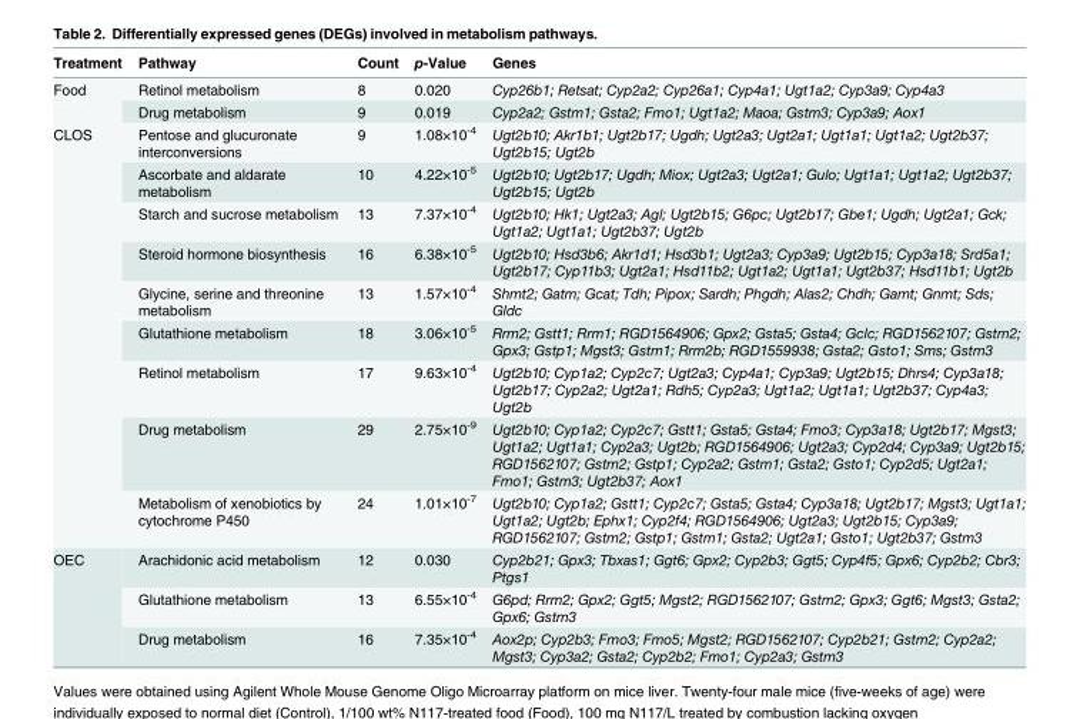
<table><thead><tr><td>Treatment</td><td>Pathway</td><td>Count</td><td>p-Value</td><td>Genes</td></tr></thead><tbody><tr><td rowspan="2">Food</td><td>Retinol metabolism</td><td>8</td><td>0.020</td><td>Cyp26b1; Retsat; Cyp2a2; Cyp26a1; Cyp4a1; Ugt1a2; Cyp3a9; Cyp4a3</td></tr><tr><td>Drug metabolism</td><td>9</td><td>0.019</td><td>Cyp2a2; Gstm1; Gsta2; Fmo1; Ugt1a2; Maoa; Gstm3; Cyp3a9; Aox1</td></tr><tr><td rowspan="9">CLOS</td><td>Pentose and glucuronate interconversions</td><td>9</td><td>1.08×10<sup>-4</sup></td><td>Ugt2b10; Akr1b1; Ugt2b17; Ugdh; Ugt2a3; Ugt2a1; Ugt1a1; Ugt1a2; Ugt2b37; Ugt2b15; Ugt2b</td></tr><tr><td>Ascorbate and aldarate metabolism</td><td>10</td><td>4.22×10<sup>-5</sup></td><td>Ugt2b10; Ugt2b17; Ugdh; Miox; Ugt2a3; Ugt2a1; Gulo; Ugt1a1; Ugt1a2; Ugt2b37; Ugt2b15; Ugt2b</td></tr><tr><td>Starch and sucrose metabolism</td><td>13</td><td>7.37×10<sup>-4</sup></td><td>Ugt2b10; Hk1; Ugt2a3; Agl; Ugt2b15; G6pc; Ugt2b17; Gbe1; Ugdh; Ugt2a1; Gck; Ugt1a2; Ugt1a1; Ugt2b37; Ugt2b</td></tr><tr><td>Steroid hormone biosynthesis</td><td>16</td><td>6.38×10<sup>-5</sup></td><td>Ugt2b10; Hsd3b6; Akr1d1; Hsd3b1; Ugt2a3; Cyp3a9; Ugt2b15; Cyp3a18; Srd5a1; Ugt2b17; Cyp11b3; Ugt2a1; Hsd11b2; Ugt1a2; Ugt1a1; Ugt2b37; Hsd11b1; Ugt2b</td></tr><tr><td>Glycine, serine and threonine metabolism</td><td>13</td><td>1.57×10<sup>-4</sup></td><td>Shmt2; Gatm; Gcat; Tdh; Pipox; Sardh; Phgdh; Alas2; Chdh; Gamt; Gnmt; Sds; Gldc</td></tr><tr><td>Glutathione metabolism</td><td>18</td><td>3.06×10<sup>-5</sup></td><td>Rrm2; Gstt1; Rrm1; RGD1564906; Gpx2; Gsta5; Gsta4; Gclc; RGD1562107; Gstm2; Gpx3; Gstp1; Mgst3; Gstm1; Rrm2b; RGD1559938; Gsta2; Gsto1; Sms; Gstm3</td></tr><tr><td>Retinol metabolism</td><td>17</td><td>9.63×10<sup>-4</sup></td><td>Ugt2b10; Cyp1a2; Cyp2c7; Ugt2a3; Cyp4a1; Cyp3a9; Ugt2b15; Dhrs4; Cyp3a18; Ugt2b17; Cyp2a2; Ugt2a1; Rdh5; Cyp2a3; Ugt1a2; Ugt1a1; Ugt2b37; Cyp4a3; Ugt2b</td></tr><tr><td>Drug metabolism</td><td>29</td><td>2.75×10<sup>-9</sup></td><td>Ugt2b10; Cyp1a2; Cyp2c7; Gstt1; Gsta5; Gsta4; Fmo3; Cyp3a18; Ugt2b17; Mgst3; Ugt1a2; Ugt1a1; Cyp2a3; Ugt2b; RGD1564906; Ugt2a3; Cyp2d4; Cyp3a9; Ugt2b15; RGD1562107; Gstm2; Gstp1; Cyp2a2; Gstm1; Gsta2; Gsto1; Cyp2d5; Ugt2a1; Fmo1; Gstm3; Ugt2b37; Aox1</td></tr><tr><td>Metabolism of xenobiotics by cytochrome P450</td><td>24</td><td>1.01×10<sup>-7</sup></td><td>Ugt2b10; Cyp1a2; Gstt1; Cyp2c7; Gsta5; Gsta4; Cyp3a18; Ugt2b17; Mgst3; Ugt1a1; Ugt1a2; Ugt2b; Ephx1; Cyp2f4; RGD1564906; Ugt2a3; Ugt2b15; Cyp3a9; RGD1562107; Gstm2; Gstp1; Gstm1; Gsta2; Ugt2a1; Gsto1; Ugt2b37; Gstm3</td></tr><tr><td rowspan="3">OEC</td><td>Arachidonic acid metabolism</td><td>12</td><td>0.030</td><td>Cyp2b21; Gpx3; Tbxas1; Ggt6; Gpx2; Cyp2b3; Ggt5; Cyp4f5; Gpx6; Cyp2b2; Cbr3; Ptgs1</td></tr><tr><td>Glutathione metabolism</td><td>13</td><td>6.55×10<sup>-4</sup></td><td>G6pd; Rrm2; Gpx2; Ggt5; Mgst2; RGD1562107; Gstm2; Gpx3; Ggt6; Mgst3; Gsta2; Gpx6; Gstm3</td></tr><tr><td>Drug metabolism</td><td>16</td><td>7.35×10<sup>-4</sup></td><td>Aox2p; Cyp2b3; Fmo3; Fmo5; Mgst2; RGD1562107; Cyp2b21; Gstm2; Cyp2a2; Mgst3; Cyp3a2; Gsta2; Cyp2b2; Fmo1; Cyp2a3; Gstm3</td></tr></tbody></table>